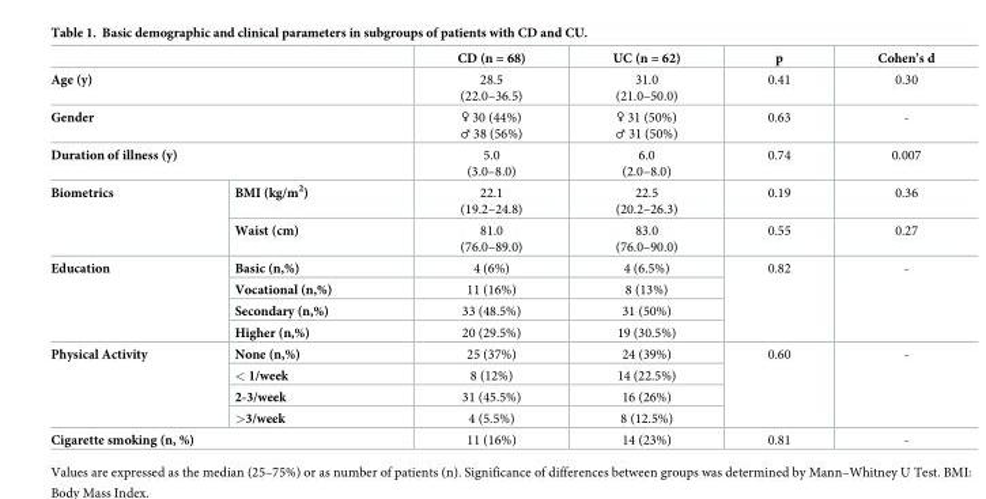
<table><thead><tr><td></td><td></td><td>CD (n = 68)</td><td>UC (n = 62)</td><td>p</td><td>Cohen’s d</td></tr></thead><tbody><tr><td colspan="2">Age (y)</td><td>28.5 (22.0–36.5)</td><td>31.0 (21.0–50.0)</td><td>0.41</td><td>0.30</td></tr><tr><td colspan="2">Gender</td><td>♀ 30 (44%) ♂ 38 (56%)</td><td>♀ 31 (50%) ♂ 31 (50%)</td><td>0.63</td><td>-</td></tr><tr><td colspan="2">Duration of illness (y)</td><td>5.0 (3.0–8.0)</td><td>6.0 (2.0–8.0)</td><td>0.74</td><td>0.007</td></tr><tr><td rowspan="2">Biometrics</td><td>BMI (kg/m<sup>2</sup>)</td><td>22.1 (19.2–24.8)</td><td>22.5 (20.2–26.3)</td><td>0.19</td><td>0.36</td></tr><tr><td>Waist (cm)</td><td>81.0 (76.0–89.0)</td><td>83.0 (76.0–90.0)</td><td>0.55</td><td>0.27</td></tr><tr><td rowspan="4">Education</td><td>Basic (n,%)</td><td>4 (6%)</td><td>4 (6.5%)</td><td rowspan="4">0.82</td><td rowspan="4">-</td></tr><tr><td>Vocational (n,%)</td><td>11 (16%)</td><td>8 (13%)</td></tr><tr><td>Secondary (n,%)</td><td>33 (48.5%)</td><td>31 (50%)</td></tr><tr><td>Higher (n,%)</td><td>20 (29.5%)</td><td>19 (30.5%)</td></tr><tr><td rowspan="4">Physical Activity</td><td>None (n,%)</td><td>25 (37%)</td><td>24 (39%)</td><td rowspan="4">0.60</td><td rowspan="4">-</td></tr><tr><td>&lt; 1/week</td><td>8 (12%)</td><td>14 (22.5%)</td></tr><tr><td>2-3/week</td><td>31 (45.5%)</td><td>16 (26%)</td></tr><tr><td>&gt;3/week</td><td>4 (5.5%)</td><td>8 (12.5%)</td></tr><tr><td colspan="2">Cigarette smoking (n, %)</td><td>11 (16%)</td><td>14 (23%)</td><td>0.81</td><td>-</td></tr></tbody></table>